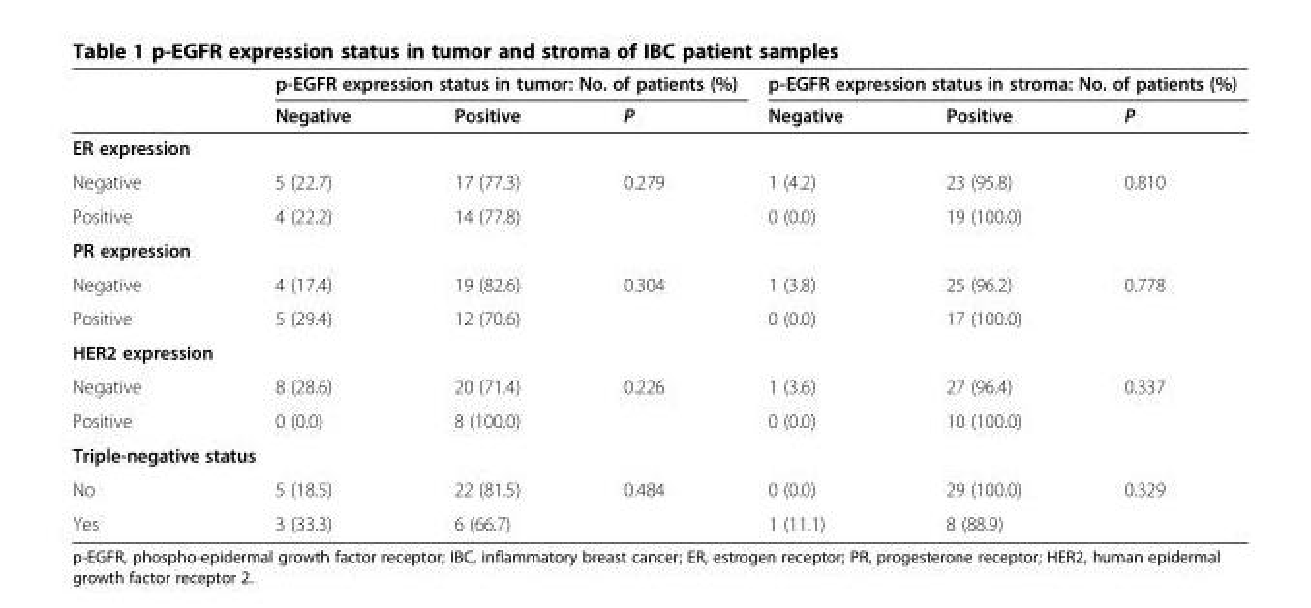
<table><thead><tr><td rowspan="2"></td><td colspan="3">p-EGFR expression status in tumor: No. of patients (%)</td><td colspan="3">p-EGFR expression status in stroma: No. of patients (%)</td></tr><tr><td>Negative</td><td>Positive</td><td>P</td><td>Negative</td><td>Positive</td><td>P</td></tr></thead><tbody><tr><td colspan="7">ER expression</td></tr><tr><td>Negative</td><td>5 (22.7)</td><td>17 (77.3)</td><td>0.279</td><td>1 (4.2)</td><td>23 (95.8)</td><td>0.810</td></tr><tr><td>Positive</td><td>4 (22.2)</td><td>14 (77.8)</td><td></td><td>0 (0.0)</td><td>19 (100.0)</td><td></td></tr><tr><td colspan="7">PR expression</td></tr><tr><td>Negative</td><td>4 (17.4)</td><td>19 (82.6)</td><td>0.304</td><td>1 (3.8)</td><td>25 (96.2)</td><td>0.778</td></tr><tr><td>Positive</td><td>5 (29.4)</td><td>12 (70.6)</td><td></td><td>0 (0.0)</td><td>17 (100.0)</td><td></td></tr><tr><td colspan="7">HER2 expression</td></tr><tr><td>Negative</td><td>8 (28.6)</td><td>20 (71.4)</td><td>0.226</td><td>1 (3.6)</td><td>27 (96.4)</td><td>0.337</td></tr><tr><td>Positive</td><td>0 (0.0)</td><td>8 (100.0)</td><td></td><td>0 (0.0)</td><td>10 (100.0)</td><td></td></tr><tr><td colspan="7">Triple-negative status</td></tr><tr><td>No</td><td>5 (18.5)</td><td>22 (81.5)</td><td>0.484</td><td>0 (0.0)</td><td>29 (100.0)</td><td>0.329</td></tr><tr><td>Yes</td><td>3 (33.3)</td><td>6 (66.7)</td><td></td><td>1 (11.1)</td><td>8 (88.9)</td><td></td></tr></tbody></table>